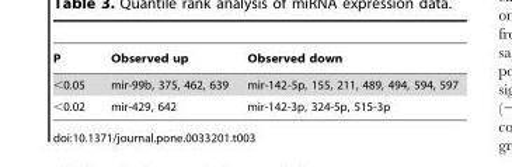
<table><thead><tr><td>P</td><td>Observed up</td><td>Observed down</td></tr></thead><tbody><tr><td>&lt;0.05</td><td>mir-99b, 375, 462, 639</td><td>mir-142-5p, 155, 211, 489, 494, 594, 597</td></tr><tr><td>&lt;0.02</td><td>mir-429, 642</td><td>mir-142-3p, 324-5p, 515-3p</td></tr></tbody></table>